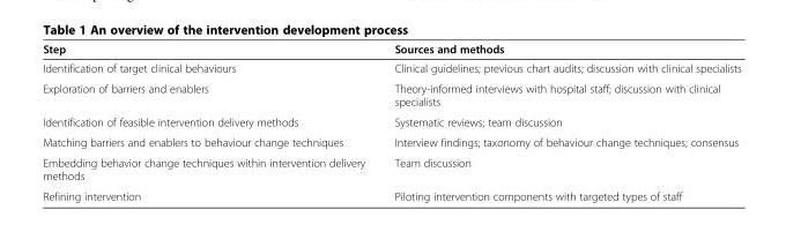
<table><thead><tr><td>Step</td><td>Sources and methods</td></tr></thead><tbody><tr><td>Identification of target clinical behaviours</td><td>Clinical guidelines; previous chart audits; discussion with clinical specialists</td></tr><tr><td>Exploration of barriers and enablers</td><td>Theory-informed interviews with hospital staff; discussion with clinical specialists</td></tr><tr><td>Identification of feasible intervention delivery methods</td><td>Systematic reviews; team discussion</td></tr><tr><td>Matching barriers and enablers to behaviour change techniques</td><td>Interview findings; taxonomy of behaviour change techniques; consensus</td></tr><tr><td>Embedding behavior change techniques within intervention delivery methods</td><td>Team discussion</td></tr><tr><td>Refining intervention</td><td>Piloting intervention components with targeted types of staff</td></tr></tbody></table>